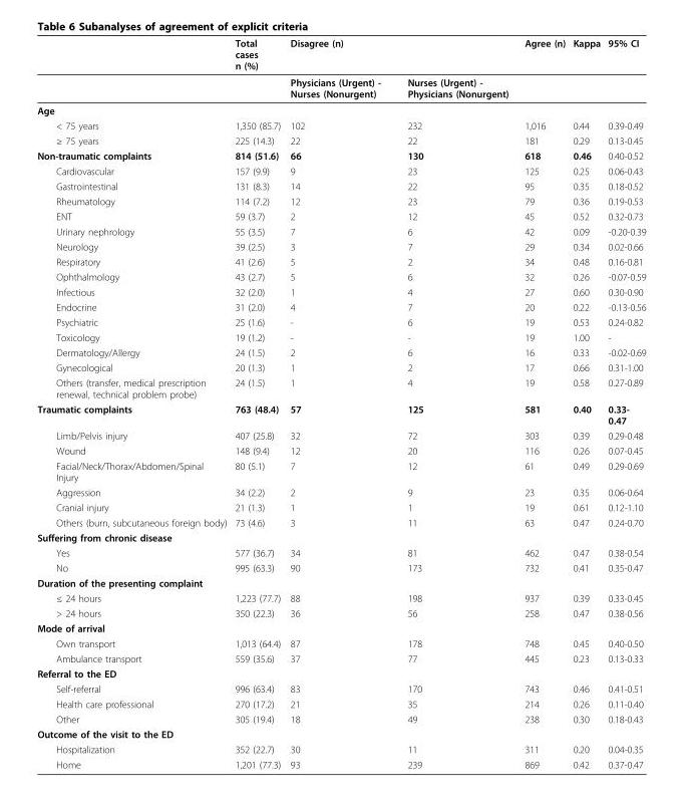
<table><thead><tr><td rowspan="2"></td><td rowspan="2">Total cases n (%)</td><td colspan="2">Disagree (n)</td><td rowspan="2">Agree (n)</td><td rowspan="2">Kappa</td><td rowspan="2">95% CI</td></tr><tr><td>Physicians (Urgent) - Nurses (Nonurgent)</td><td>Nurses (Urgent) - Physicians (Nonurgent)</td></tr></thead><tbody><tr><td colspan="7">Age</td></tr><tr><td>&lt; 75 years</td><td>1,350 (85.7)</td><td>102</td><td>232</td><td>1,016</td><td>0.44</td><td>0.39-0.49</td></tr><tr><td>≥ 75 years</td><td>225 (14.3)</td><td>22</td><td>22</td><td>181</td><td>0.29</td><td>0.13-0.45</td></tr><tr><td>Non-traumatic complaints</td><td>814 (51.6)</td><td>66</td><td>130</td><td>618</td><td>0.46</td><td>0.40-0.52</td></tr><tr><td>Cardiovascular</td><td>157 (9.9)</td><td>9</td><td>23</td><td>125</td><td>0.25</td><td>0.06-0.43</td></tr><tr><td>Gastrointestinal</td><td>131 (8.3)</td><td>14</td><td>22</td><td>95</td><td>0.35</td><td>0.18-0.52</td></tr><tr><td>Rheumatology</td><td>114 (7.2)</td><td>12</td><td>23</td><td>79</td><td>0.36</td><td>0.19-0.53</td></tr><tr><td>ENT</td><td>59 (3.7)</td><td>2</td><td>12</td><td>45</td><td>0.52</td><td>0.32-0.73</td></tr><tr><td>Urinary nephrology</td><td>55 (3.5)</td><td>7</td><td>6</td><td>42</td><td>0.09</td><td>-0.20-0.39</td></tr><tr><td>Neurology</td><td>39 (2.5)</td><td>3</td><td>7</td><td>29</td><td>0.34</td><td>0.02-0.66</td></tr><tr><td>Respiratory</td><td>41 (2.6)</td><td>5</td><td>2</td><td>34</td><td>0.48</td><td>0.16-0.81</td></tr><tr><td>Ophthalmology</td><td>43 (2.7)</td><td>5</td><td>6</td><td>32</td><td>0.26</td><td>-0.07-0.59</td></tr><tr><td>Infectious</td><td>32 (2.0)</td><td>1</td><td>4</td><td>27</td><td>0.60</td><td>0.30-0.90</td></tr><tr><td>Endocrine</td><td>31 (2.0)</td><td>4</td><td>7</td><td>20</td><td>0.22</td><td>-0.13-0.56</td></tr><tr><td>Psychiatric</td><td>25 (1.6)</td><td>-</td><td>6</td><td>19</td><td>0.53</td><td>0.24-0.82</td></tr><tr><td>Toxicology</td><td>19 (1.2)</td><td>-</td><td>-</td><td>19</td><td>1.00</td><td>-</td></tr><tr><td>Dermatology/Allergy</td><td>24 (1.5)</td><td>2</td><td>6</td><td>16</td><td>0.33</td><td>-0.02-0.69</td></tr><tr><td>Gynecological</td><td>20 (1.3)</td><td>1</td><td>2</td><td>17</td><td>0.66</td><td>0.31-1.00</td></tr><tr><td>Others (transfer, medical prescription renewal, technical problem probe)</td><td>24 (1.5)</td><td>1</td><td>4</td><td>19</td><td>0.58</td><td>0.27-0.89</td></tr><tr><td>Traumatic complaints</td><td>763 (48.4)</td><td>57</td><td>125</td><td>581</td><td>0.40</td><td>0.33- 0.47</td></tr><tr><td>Limb/Pelvis injury</td><td>407 (25.8)</td><td>32</td><td>72</td><td>303</td><td>0.39</td><td>0.29-0.48</td></tr><tr><td>Wound</td><td>148 (9.4)</td><td>12</td><td>20</td><td>116</td><td>0.26</td><td>0.07-0.45</td></tr><tr><td>Facial/Neck/Thorax/Abdomen/Spinal Injury</td><td>80 (5.1)</td><td>7</td><td>12</td><td>61</td><td>0.49</td><td>0.29-0.69</td></tr><tr><td>Aggression</td><td>34 (2.2)</td><td>2</td><td>9</td><td>23</td><td>0.35</td><td>0.06-0.64</td></tr><tr><td>Cranial injury</td><td>21 (1.3)</td><td>1</td><td>1</td><td>19</td><td>0.61</td><td>0.12-1.10</td></tr><tr><td>Others (burn, subcutaneous foreign body)</td><td>73 (4.6)</td><td>3</td><td>11</td><td>63</td><td>0.47</td><td>0.24-0.70</td></tr><tr><td colspan="7">Suffering from chronic disease</td></tr><tr><td>Yes</td><td>577 (36.7)</td><td>34</td><td>81</td><td>462</td><td>0.47</td><td>0.38-0.54</td></tr><tr><td>No</td><td>995 (63.3)</td><td>90</td><td>173</td><td>732</td><td>0.41</td><td>0.35-0.47</td></tr><tr><td colspan="7">Duration of the presenting complaint</td></tr><tr><td>≤ 24 hours</td><td>1,223 (77.7)</td><td>88</td><td>198</td><td>937</td><td>0.39</td><td>0.33-0.45</td></tr><tr><td>&gt; 24 hours</td><td>350 (22.3)</td><td>36</td><td>56</td><td>258</td><td>0.47</td><td>0.38-0.56</td></tr><tr><td colspan="7">Mode of arrival</td></tr><tr><td>Own transport</td><td>1,013 (64.4)</td><td>87</td><td>178</td><td>748</td><td>0.45</td><td>0.40-0.50</td></tr><tr><td>Ambulance transport</td><td>559 (35.6)</td><td>37</td><td>77</td><td>445</td><td>0.23</td><td>0.13-0.33</td></tr><tr><td colspan="7">Referral to the ED</td></tr><tr><td>Self-referral</td><td>996 (63.4)</td><td>83</td><td>170</td><td>743</td><td>0.46</td><td>0.41-0.51</td></tr><tr><td>Health care professional</td><td>270 (17.2)</td><td>21</td><td>35</td><td>214</td><td>0.26</td><td>0.11-0.40</td></tr><tr><td>Other</td><td>305 (19.4)</td><td>18</td><td>49</td><td>238</td><td>0.30</td><td>0.18-0.43</td></tr><tr><td colspan="7">Outcome of the visit to the ED</td></tr><tr><td>Hospitalization</td><td>352 (22.7)</td><td>30</td><td>11</td><td>311</td><td>0.20</td><td>0.04-0.35</td></tr><tr><td>Home</td><td>1,201 (77.3)</td><td>93</td><td>239</td><td>869</td><td>0.42</td><td>0.37-0.47</td></tr></tbody></table>